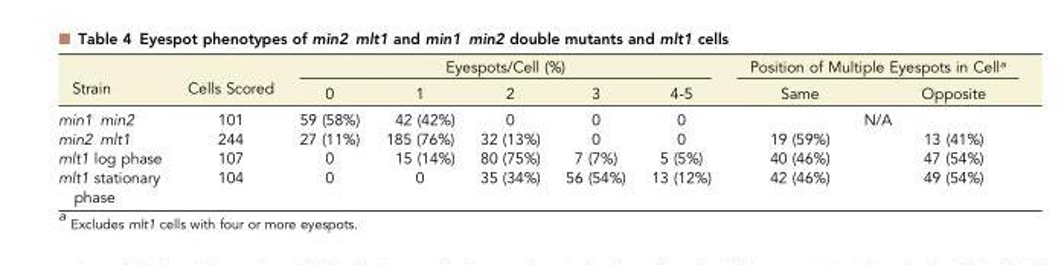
<table><thead><tr><td rowspan="2">Strain</td><td rowspan="2">Cells Scored</td><td colspan="5">Eyespots/Cell (%)</td><td colspan="2">Position of Multiple Eyespots in Cell<sup>a</sup></td></tr><tr><td>0</td><td>1</td><td>2</td><td>3</td><td>4-5</td><td>Same</td><td>Opposite</td></tr></thead><tbody><tr><td>min1 min2</td><td>101</td><td>59 (58%)</td><td>42 (42%)</td><td>0</td><td>0</td><td>0</td><td colspan="2">N/A</td></tr><tr><td>min2 mlt1</td><td>244</td><td>27 (11%)</td><td>185 (76%)</td><td>32 (13%)</td><td>0</td><td>0</td><td>19 (59%)</td><td>13 (41%)</td></tr><tr><td>mlt1 log phase</td><td>107</td><td>0</td><td>15 (14%)</td><td>80 (75%)</td><td>7 (7%)</td><td>5 (5%)</td><td>40 (46%)</td><td>47 (54%)</td></tr><tr><td>mlt1 stationary phase</td><td>104</td><td>0</td><td>0</td><td>35 (34%)</td><td>56 (54%)</td><td>13 (12%)</td><td>42 (46%)</td><td>49 (54%)</td></tr></tbody></table>